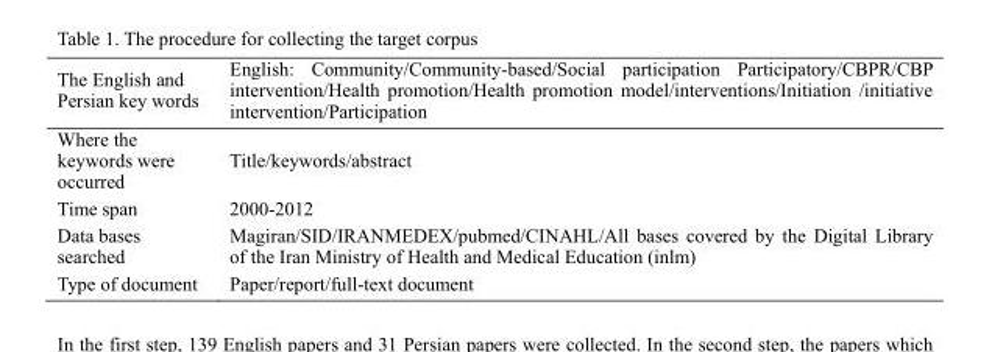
<table><thead><tr><td>The English and Persian key words</td><td>English: Community/Community-based/Social participation Participatory/CBPR/CBP intervention/Health promotion/Health promotion model/interventions/Initiation /initiative intervention/Participation</td></tr></thead><tbody><tr><td>Where the keywords were occurred</td><td>Title/keywords/abstract</td></tr><tr><td>Time span</td><td>2000-2012</td></tr><tr><td>Data bases searched</td><td>Magiran/SID/IRANMEDEX/pubmed/CINAHL/All bases covered by the Digital Library of the Iran Ministry of Health and Medical Education (inlm)</td></tr><tr><td>Type of document</td><td>Paper/report/full-text document</td></tr></tbody></table>